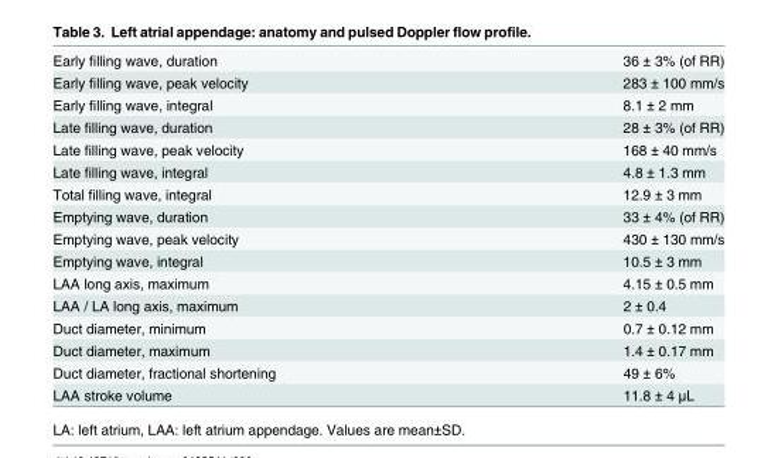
<table><tbody><tr><td>Early filling wave, duration</td><td>36 ± 3% (of RR)</td></tr><tr><td>Early filling wave, peak velocity</td><td>283 ± 100 mm/s</td></tr><tr><td>Early filling wave, integral</td><td>8.1 ± 2 mm</td></tr><tr><td>Late filling wave, duration</td><td>28 ± 3% (of RR)</td></tr><tr><td>Late filling wave, peak velocity</td><td>168 ± 40 mm/s</td></tr><tr><td>Late filling wave, integral</td><td>4.8 ± 1.3 mm</td></tr><tr><td>Total filling wave, integral</td><td>12.9 ± 3 mm</td></tr><tr><td>Emptying wave, duration</td><td>33 ± 4% (of RR)</td></tr><tr><td>Emptying wave, peak velocity</td><td>430 ± 130 mm/s</td></tr><tr><td>Emptying wave, integral</td><td>10.5 ± 3 mm</td></tr><tr><td>LAA long axis, maximum</td><td>4.15 ± 0.5 mm</td></tr><tr><td>LAA / LA long axis, maximum</td><td>2 ± 0.4</td></tr><tr><td>Duct diameter, minimum</td><td>0.7 ± 0.12 mm</td></tr><tr><td>Duct diameter, maximum</td><td>1.4 ± 0.17 mm</td></tr><tr><td>Duct diameter, fractional shortening</td><td>49 ± 6%</td></tr><tr><td>LAA stroke volume</td><td>11.8 ± 4 μL</td></tr></tbody></table>